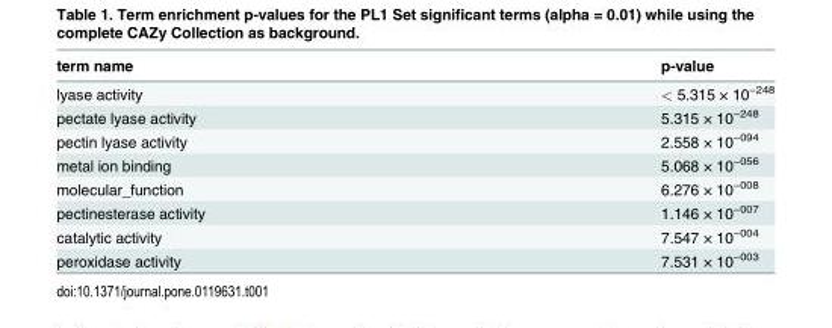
<table><thead><tr><td>term name</td><td>p-value</td></tr></thead><tbody><tr><td>lyase activity</td><td>&lt; 5.315 × 10<sup>−248</sup></td></tr><tr><td>pectate lyase activity</td><td>5.315 × 10<sup>−248</sup></td></tr><tr><td>pectin lyase activity</td><td>2.558 × 10<sup>−094</sup></td></tr><tr><td>metal ion binding</td><td>5.068 × 10<sup>−056</sup></td></tr><tr><td>molecular_function</td><td>6.276 × 10<sup>−008</sup></td></tr><tr><td>pectinesterase activity</td><td>1.146 × 10<sup>−007</sup></td></tr><tr><td>catalytic activity</td><td>7.547 × 10<sup>−004</sup></td></tr><tr><td>peroxidase activity</td><td>7.531 × 10<sup>−003</sup></td></tr></tbody></table>